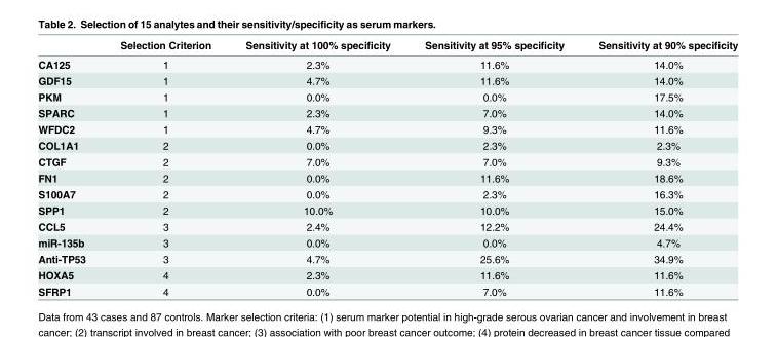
<table><thead><tr><td></td><td>Selection Criterion</td><td>Sensitivity at 100% specificity</td><td>Sensitivity at 95% specificity</td><td>Sensitivity at 90% specificity</td></tr></thead><tbody><tr><td>CA125</td><td>1</td><td>2.3%</td><td>11.6%</td><td>14.0%</td></tr><tr><td>GDF15</td><td>1</td><td>4.7%</td><td>11.6%</td><td>14.0%</td></tr><tr><td>PKM</td><td>1</td><td>0.0%</td><td>0.0%</td><td>17.5%</td></tr><tr><td>SPARC</td><td>1</td><td>2.3%</td><td>7.0%</td><td>14.0%</td></tr><tr><td>WFDC2</td><td>1</td><td>4.7%</td><td>9.3%</td><td>11.6%</td></tr><tr><td>COL1A1</td><td>2</td><td>0.0%</td><td>2.3%</td><td>2.3%</td></tr><tr><td>CTGF</td><td>2</td><td>7.0%</td><td>7.0%</td><td>9.3%</td></tr><tr><td>FN1</td><td>2</td><td>0.0%</td><td>11.6%</td><td>18.6%</td></tr><tr><td>S100A7</td><td>2</td><td>0.0%</td><td>2.3%</td><td>16.3%</td></tr><tr><td>SPP1</td><td>2</td><td>10.0%</td><td>10.0%</td><td>15.0%</td></tr><tr><td>CCL5</td><td>3</td><td>2.4%</td><td>12.2%</td><td>24.4%</td></tr><tr><td>miR-135b</td><td>3</td><td>0.0%</td><td>0.0%</td><td>4.7%</td></tr><tr><td>Anti-TP53</td><td>3</td><td>4.7%</td><td>25.6%</td><td>34.9%</td></tr><tr><td>HOXA5</td><td>4</td><td>2.3%</td><td>11.6%</td><td>11.6%</td></tr><tr><td>SFRP1</td><td>4</td><td>0.0%</td><td>7.0%</td><td>11.6%</td></tr></tbody></table>